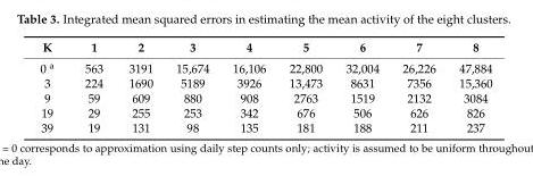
<table><thead><tr><td>K</td><td>1</td><td>2</td><td>3</td><td>4</td><td>5</td><td>6</td><td>7</td><td>8</td></tr></thead><tbody><tr><td>0 <sup>a</sup></td><td>563</td><td>3191</td><td>15,674</td><td>16,106</td><td>22,800</td><td>32,004</td><td>26,226</td><td>47,884</td></tr><tr><td>3</td><td>224</td><td>1690</td><td>5189</td><td>3926</td><td>13,473</td><td>8631</td><td>7356</td><td>15,360</td></tr><tr><td>9</td><td>59</td><td>609</td><td>880</td><td>908</td><td>2763</td><td>1519</td><td>2132</td><td>3084</td></tr><tr><td>19</td><td>29</td><td>255</td><td>253</td><td>342</td><td>676</td><td>506</td><td>626</td><td>826</td></tr><tr><td>39</td><td>19</td><td>131</td><td>98</td><td>135</td><td>181</td><td>188</td><td>211</td><td>237</td></tr></tbody></table>